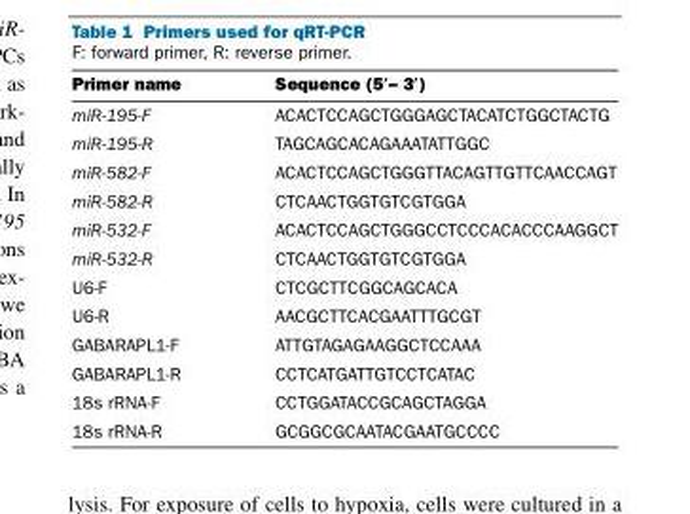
<table><thead><tr><td>Primer name</td><td>Sequence (5′– 3′)</td></tr></thead><tbody><tr><td>miR-195-F</td><td>ACACTCCAGCTGGGAGCTACATCTGGCTACTG</td></tr><tr><td>miR-195-R</td><td>TAGCAGCACAGAAATATTGGC</td></tr><tr><td>miR-582-F</td><td>ACACTCCAGCTGGGTTACAGTTGTTCAACCAGT</td></tr><tr><td>miR-582-R</td><td>CTCAACTGGTGTCGTGGA</td></tr><tr><td>miR-532-F</td><td>ACACTCCAGCTGGGCCTCCCACACCCAAGGCT</td></tr><tr><td>miR-532-R</td><td>CTCAACTGGTGTCGTGGA</td></tr><tr><td>U6-F</td><td>CTCGCTTCGGCAGCACA</td></tr><tr><td>U6-R</td><td>AACGCTTCACGAATTTGCGT</td></tr><tr><td>GABARAPL1-F</td><td>ATTGTAGAGAAGGCTCCAAA</td></tr><tr><td>GABARAPL1-R</td><td>CCTCATGATTGTCCTCATAC</td></tr><tr><td>18s rRNA-F</td><td>CCTGGATACCGCAGCTAGGA</td></tr><tr><td>18s rRNA-R</td><td>GCGGCGCAATACGAATGCCCC</td></tr></tbody></table>